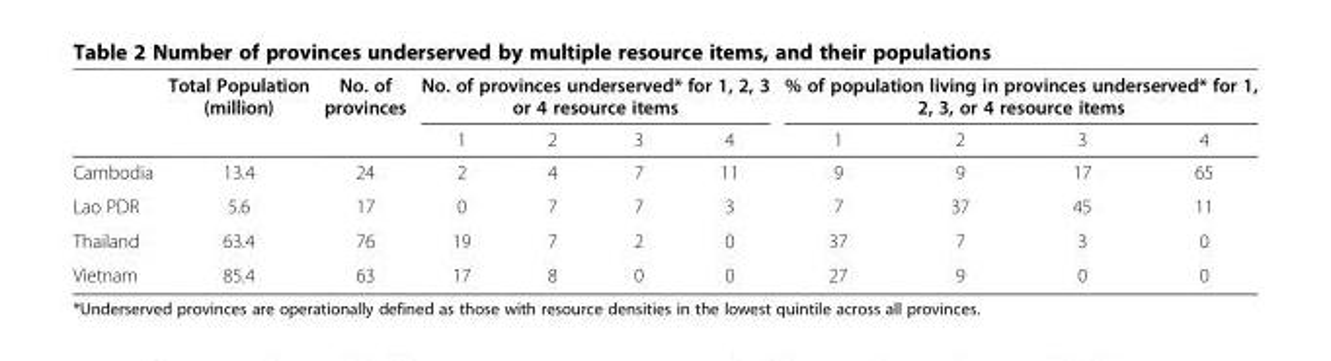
<table><thead><tr><td rowspan="2"></td><td rowspan="2">Total Population (million)</td><td rowspan="2">No. of provinces</td><td colspan="4">No. of provinces underserved* for 1, 2, 3 or 4 resource items</td><td colspan="4">% of population living in provinces underserved* for 1, 2, 3, or 4 resource items</td></tr><tr><td>1</td><td>2</td><td>3</td><td>4</td><td>1</td><td>2</td><td>3</td><td>4</td></tr></thead><tbody><tr><td>Cambodia</td><td>13.4</td><td>24</td><td>2</td><td>4</td><td>7</td><td>11</td><td>9</td><td>9</td><td>17</td><td>65</td></tr><tr><td>Lao PDR</td><td>5.6</td><td>17</td><td>0</td><td>7</td><td>7</td><td>3</td><td>7</td><td>37</td><td>45</td><td>11</td></tr><tr><td>Thailand</td><td>63.4</td><td>76</td><td>19</td><td>7</td><td>2</td><td>0</td><td>37</td><td>7</td><td>3</td><td>0</td></tr><tr><td>Vietnam</td><td>85.4</td><td>63</td><td>17</td><td>8</td><td>0</td><td>0</td><td>27</td><td>9</td><td>0</td><td>0</td></tr></tbody></table>